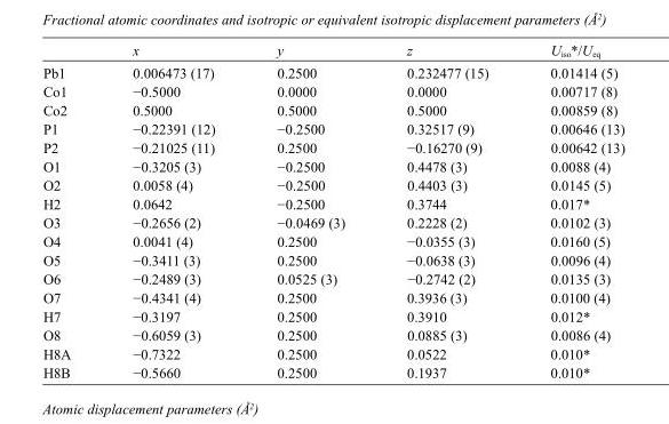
<table><thead><tr><td></td><td>x</td><td>y</td><td>z</td><td>U<sub>iso</sub>*/U<sub>eq</sub></td></tr></thead><tbody><tr><td>Pb1</td><td>0.006473 (17)</td><td>0.2500</td><td>0.232477 (15)</td><td>0.01414 (5)</td></tr><tr><td>Co1</td><td>−0.5000</td><td>0.0000</td><td>0.0000</td><td>0.00717 (8)</td></tr><tr><td>Co2</td><td>0.5000</td><td>0.5000</td><td>0.5000</td><td>0.00859 (8)</td></tr><tr><td>P1</td><td>−0.22391 (12)</td><td>−0.2500</td><td>0.32517 (9)</td><td>0.00646 (13)</td></tr><tr><td>P2</td><td>−0.21025 (11)</td><td>0.2500</td><td>−0.16270 (9)</td><td>0.00642 (13)</td></tr><tr><td>O1</td><td>−0.3205 (3)</td><td>−0.2500</td><td>0.4478 (3)</td><td>0.0088 (4)</td></tr><tr><td>O2</td><td>0.0058 (4)</td><td>−0.2500</td><td>0.4403 (3)</td><td>0.0145 (5)</td></tr><tr><td>H2</td><td>0.0642</td><td>−0.2500</td><td>0.3744</td><td>0.017*</td></tr><tr><td>O3</td><td>−0.2656 (2)</td><td>−0.0469 (3)</td><td>0.2228 (2)</td><td>0.0102 (3)</td></tr><tr><td>O4</td><td>0.0041 (4)</td><td>0.2500</td><td>−0.0355 (3)</td><td>0.0160 (5)</td></tr><tr><td>O5</td><td>−0.3411 (3)</td><td>0.2500</td><td>−0.0638 (3)</td><td>0.0096 (4)</td></tr><tr><td>O6</td><td>−0.2489 (3)</td><td>0.0525 (3)</td><td>−0.2742 (2)</td><td>0.0135 (3)</td></tr><tr><td>O7</td><td>−0.4341 (4)</td><td>0.2500</td><td>0.3936 (3)</td><td>0.0100 (4)</td></tr><tr><td>H7</td><td>−0.3197</td><td>0.2500</td><td>0.3910</td><td>0.012*</td></tr><tr><td>O8</td><td>−0.6059 (3)</td><td>0.2500</td><td>0.0885 (3)</td><td>0.0086 (4)</td></tr><tr><td>H8A</td><td>−0.7322</td><td>0.2500</td><td>0.0522</td><td>0.010*</td></tr><tr><td>H8B</td><td>−0.5660</td><td>0.2500</td><td>0.1937</td><td>0.010*</td></tr></tbody></table>